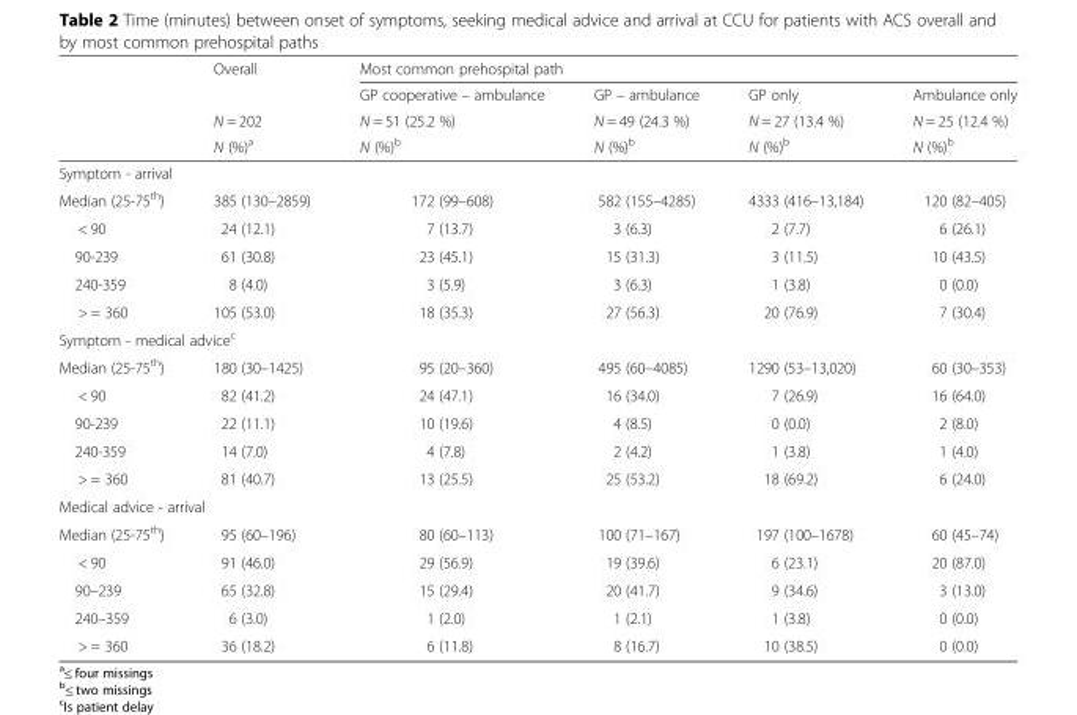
<table><thead><tr><td rowspan="4"></td><td rowspan="4">Overall N = 202 N (%)<sup>a</sup></td><td colspan="4">Most common prehospital path</td></tr><tr><td rowspan="3">GP cooperative – ambulance N = 51 (25.2 %) N (%)<sup>b</sup></td><td rowspan="3">GP – ambulance N = 49 (24.3 %) N (%)<sup>b</sup></td><td rowspan="3">GP only N = 27 (13.4 %) N (%)<sup>b</sup></td><td rowspan="3">Ambulance only N = 25 (12.4 %) N (%)<sup>b</sup></td></tr><tr></tr><tr></tr></thead><tbody><tr><td colspan="6">Symptom - arrival</td></tr><tr><td>Median (25-75<sup>th</sup>)</td><td>385 (130–2859)</td><td>172 (99–608)</td><td>582 (155–4285)</td><td>4333 (416–13,184)</td><td>120 (82–405)</td></tr><tr><td>&lt; 90</td><td>24 (12.1)</td><td>7 (13.7)</td><td>3 (6.3)</td><td>2 (7.7)</td><td>6 (26.1)</td></tr><tr><td>90-239</td><td>61 (30.8)</td><td>23 (45.1)</td><td>15 (31.3)</td><td>3 (11.5)</td><td>10 (43.5)</td></tr><tr><td>240-359</td><td>8 (4.0)</td><td>3 (5.9)</td><td>3 (6.3)</td><td>1 (3.8)</td><td>0 (0.0)</td></tr><tr><td>&gt; = 360</td><td>105 (53.0)</td><td>18 (35.3)</td><td>27 (56.3)</td><td>20 (76.9)</td><td>7 (30.4)</td></tr><tr><td colspan="6">Symptom - medical advice<sup>c</sup></td></tr><tr><td>Median (25-75<sup>th</sup>)</td><td>180 (30–1425)</td><td>95 (20–360)</td><td>495 (60–4085)</td><td>1290 (53–13,020)</td><td>60 (30–353)</td></tr><tr><td>&lt; 90</td><td>82 (41.2)</td><td>24 (47.1)</td><td>16 (34.0)</td><td>7 (26.9)</td><td>16 (64.0)</td></tr><tr><td>90-239</td><td>22 (11.1)</td><td>10 (19.6)</td><td>4 (8.5)</td><td>0 (0.0)</td><td>2 (8.0)</td></tr><tr><td>240-359</td><td>14 (7.0)</td><td>4 (7.8)</td><td>2 (4.2)</td><td>1 (3.8)</td><td>1 (4.0)</td></tr><tr><td>&gt; = 360</td><td>81 (40.7)</td><td>13 (25.5)</td><td>25 (53.2)</td><td>18 (69.2)</td><td>6 (24.0)</td></tr><tr><td colspan="6">Medical advice - arrival</td></tr><tr><td>Median (25-75<sup>th</sup>)</td><td>95 (60–196)</td><td>80 (60–113)</td><td>100 (71–167)</td><td>197 (100–1678)</td><td>60 (45–74)</td></tr><tr><td>&lt; 90</td><td>91 (46.0)</td><td>29 (56.9)</td><td>19 (39.6)</td><td>6 (23.1)</td><td>20 (87.0)</td></tr><tr><td>90–239</td><td>65 (32.8)</td><td>15 (29.4)</td><td>20 (41.7)</td><td>9 (34.6)</td><td>3 (13.0)</td></tr><tr><td>240–359</td><td>6 (3.0)</td><td>1 (2.0)</td><td>1 (2.1)</td><td>1 (3.8)</td><td>0 (0.0)</td></tr><tr><td>&gt; = 360</td><td>36 (18.2)</td><td>6 (11.8)</td><td>8 (16.7)</td><td>10 (38.5)</td><td>0 (0.0)</td></tr></tbody></table>